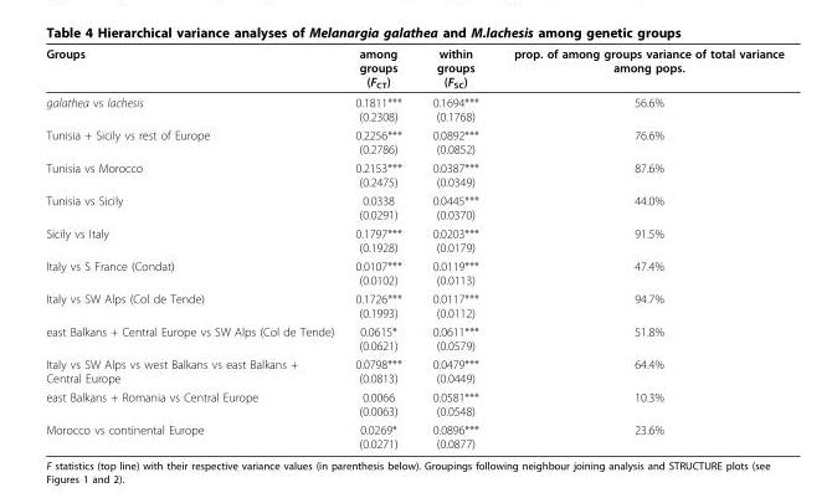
<table><thead><tr><td>Groups</td><td>among groups (F<sub>CT</sub>)</td><td>within groups (F<sub>SC</sub>)</td><td>prop. of among groups variance of total variance among pops.</td></tr></thead><tbody><tr><td>galathea vs lachesis</td><td>0.1811*** (0.2308)</td><td>0.1694*** (0.1768)</td><td>56.6%</td></tr><tr><td>Tunisia + Sicily vs rest of Europe</td><td>0.2256*** (0.2786)</td><td>0.0892*** (0.0852)</td><td>76.6%</td></tr><tr><td>Tunisia vs Morocco</td><td>0.2153*** (0.2475)</td><td>0.0387*** (0.0349)</td><td>87.6%</td></tr><tr><td>Tunisia vs Sicily</td><td>0.0338 (0.0291)</td><td>0.0445*** (0.0370)</td><td>44.0%</td></tr><tr><td>Sicily vs Italy</td><td>0.1797*** (0.1928)</td><td>0.0203*** (0.0179)</td><td>91.5%</td></tr><tr><td>Italy vs S France (Condat)</td><td>0.0107*** (0.0102)</td><td>0.0119*** (0.0113)</td><td>47.4%</td></tr><tr><td>Italy vs SW Alps (Col de Tende)</td><td>0.1726*** (0.1993)</td><td>0.0117*** (0.0112)</td><td>94.7%</td></tr><tr><td>east Balkans + Central Europe vs SW Alps (Col de Tende)</td><td>0.0615* (0.0621)</td><td>0.0611*** (0.0579)</td><td>51.8%</td></tr><tr><td>Italy vs SW Alps vs west Balkans vs east Balkans + Central Europe</td><td>0.0798*** (0.0813)</td><td>0.0479*** (0.0449)</td><td>64.4%</td></tr><tr><td>east Balkans + Romania vs Central Europe</td><td>0.0066 (0.0063)</td><td>0.0581*** (0.0548)</td><td>10.3%</td></tr><tr><td>Morocco vs continental Europe</td><td>0.0269* (0.0271)</td><td>0.0896*** (0.0877)</td><td>23.6%</td></tr></tbody></table>